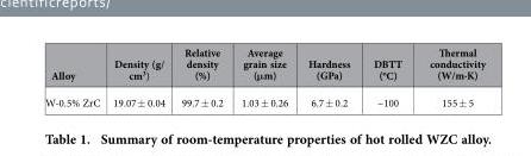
<table><thead><tr><td>Alloy</td><td>Density (g/ cm<sup>3</sup>)</td><td>Relative density (%)</td><td>Average grain size (μm)</td><td>Hardness (GPa)</td><td>DBTT (<sup>o</sup>C)</td><td>Thermal conductivity (W/m·K)</td></tr></thead><tbody><tr><td>W-0.5% ZrC</td><td>19.07 ± 0.04</td><td>99.7 ± 0.2</td><td>1.03 ± 0.26</td><td>6.7 ± 0.2</td><td>~100</td><td>155 ± 5</td></tr></tbody></table>